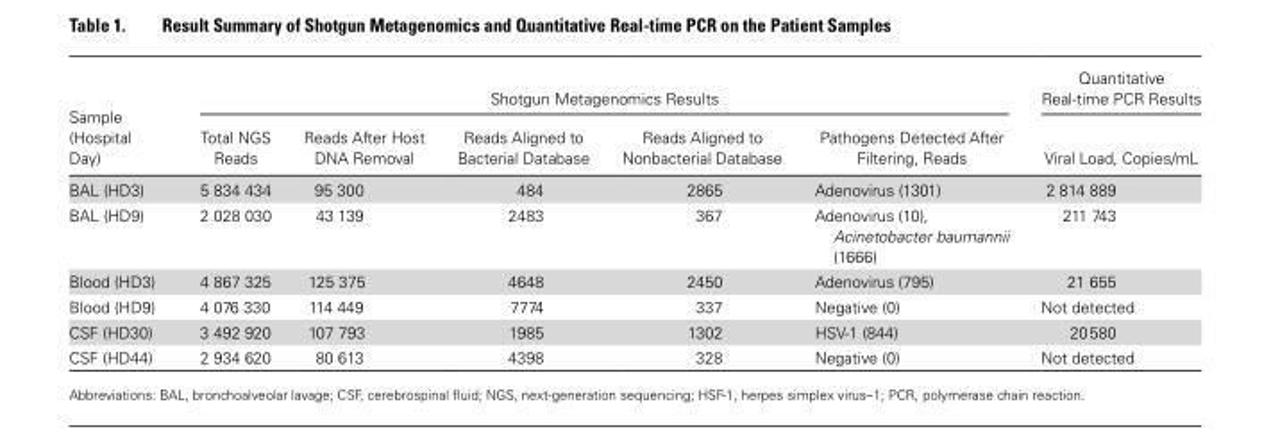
<table><thead><tr><td rowspan="2">Sample (Hospital Day)</td><td colspan="5">Shotgun Metagenomics Results</td><td rowspan="2">Quantitative Real-time PCR Results Viral Load, Copies/mL</td></tr><tr><td>Total NGS Reads</td><td>Reads After Host DNA Removal</td><td>Reads Aligned to Bacterial Database</td><td>Reads Aligned to Nonbacterial Database</td><td>Pathogens Detected After Filtering, Reads</td></tr></thead><tbody><tr><td>BAL (HD3)</td><td>5 834 434</td><td>95 300</td><td>484</td><td>2865</td><td>Adenovirus (1301)</td><td>2 814 889</td></tr><tr><td>BAL (HD9)</td><td>2 028 030</td><td>43 139</td><td>2483</td><td>367</td><td>Adenovirus (10), Acinetobacter baumannii (1666)</td><td>211 743</td></tr><tr><td>Blood (HD3)</td><td>4 867 325</td><td>125 375</td><td>4648</td><td>2450</td><td>Adenovirus (795)</td><td>21 655</td></tr><tr><td>Blood (HD9)</td><td>4 076 330</td><td>114 449</td><td>7774</td><td>337</td><td>Negative (0)</td><td>Not detected</td></tr><tr><td>CSF (HD30)</td><td>3 492 920</td><td>107 793</td><td>1985</td><td>1302</td><td>HSV-1 (844)</td><td>20 580</td></tr><tr><td>CSF (HD44)</td><td>2 934 620</td><td>80 613</td><td>4398</td><td>328</td><td>Negative (0)</td><td>Not detected</td></tr></tbody></table>